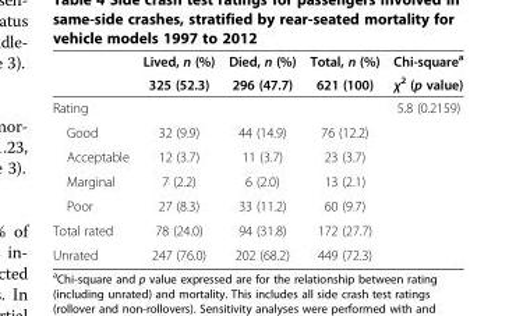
<table><thead><tr><td rowspan="2"></td><td rowspan="2">Lived, n (%) 325 (52.3)</td><td rowspan="2">Died, n (%) 296 (47.7)</td><td rowspan="2">Total, n (%) 621 (100)</td><td rowspan="2">Chi-square<sup>a</sup> χ<sup>2</sup> (p value)</td></tr><tr></tr></thead><tbody><tr><td>Rating</td><td></td><td></td><td></td><td>5.8 (0.2159)</td></tr><tr><td>Good</td><td>32 (9.9)</td><td>44 (14.9)</td><td>76 (12.2)</td><td></td></tr><tr><td>Acceptable</td><td>12 (3.7)</td><td>11 (3.7)</td><td>23 (3.7)</td><td></td></tr><tr><td>Marginal</td><td>7 (2.2)</td><td>6 (2.0)</td><td>13 (2.1)</td><td></td></tr><tr><td>Poor</td><td>27 (8.3)</td><td>33 (11.2)</td><td>60 (9.7)</td><td></td></tr><tr><td>Total rated</td><td>78 (24.0)</td><td>94 (31.8)</td><td>172 (27.7)</td><td></td></tr><tr><td>Unrated</td><td>247 (76.0)</td><td>202 (68.2)</td><td>449 (72.3)</td><td></td></tr></tbody></table>